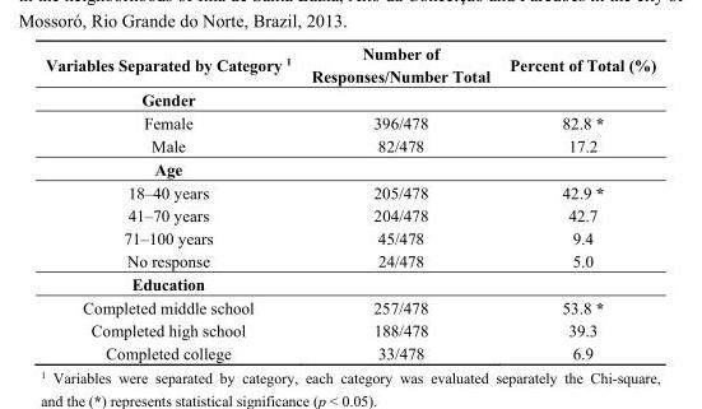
<table><thead><tr><td>Variables Separated by Category <sup>1</sup></td><td>Number of Responses/Number Total</td><td>Percent of Total (%)</td></tr></thead><tbody><tr><td colspan="3">Gender</td></tr><tr><td>Female</td><td>396/478</td><td>82.8 *</td></tr><tr><td>Male</td><td>82/478</td><td>17.2</td></tr><tr><td colspan="3">Age</td></tr><tr><td>18–40 years</td><td>205/478</td><td>42.9 *</td></tr><tr><td>41–70 years</td><td>204/478</td><td>42.7</td></tr><tr><td>71–100 years</td><td>45/478</td><td>9.4</td></tr><tr><td>No response</td><td>24/478</td><td>5.0</td></tr><tr><td colspan="3">Education</td></tr><tr><td>Completed middle school</td><td>257/478</td><td>53.8 *</td></tr><tr><td>Completed high school</td><td>188/478</td><td>39.3</td></tr><tr><td>Completed college</td><td>33/478</td><td>6.9</td></tr></tbody></table>